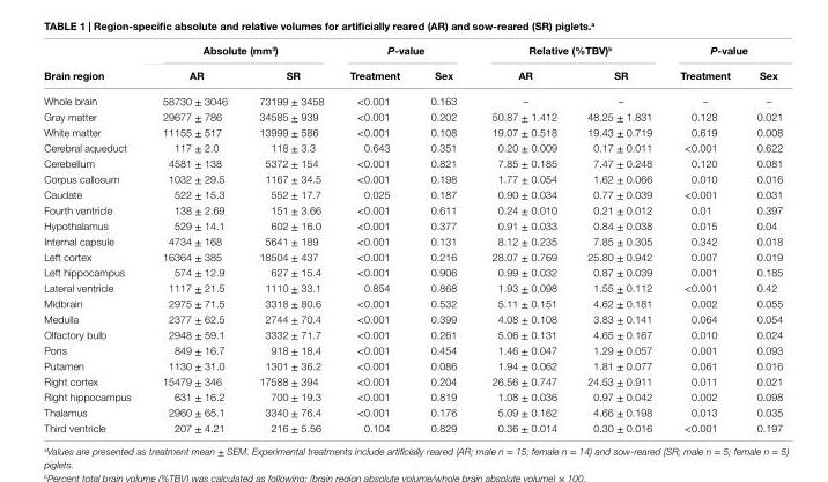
<table><thead><tr><td rowspan="2">Brain region</td><td colspan="2">absolute (mm<sup>3</sup>)</td><td colspan="2">P-value</td><td colspan="2">relative (%TBV)<sup>b</sup></td><td colspan="2">P-value</td></tr><tr><td>ar</td><td>sr</td><td>Treatment</td><td>sex</td><td>ar</td><td>sr</td><td>Treatment</td><td>sex</td></tr></thead><tbody><tr><td>Whole brain</td><td>58730 ± 3046</td><td>73199 ± 3458</td><td>&lt;0.001</td><td>0.163</td><td>–</td><td>–</td><td>–</td><td>–</td></tr><tr><td>Gray matter</td><td>29677 ± 786</td><td>34585 ± 939</td><td>&lt;0.001</td><td>0.202</td><td>50.87 ± 1.412</td><td>48.25 ± 1.831</td><td>0.128</td><td>0.021</td></tr><tr><td>White matter</td><td>11155 ± 517</td><td>13999 ± 586</td><td>&lt;0.001</td><td>0.108</td><td>19.07 ± 0.518</td><td>19.43 ± 0.719</td><td>0.619</td><td>0.008</td></tr><tr><td>Cerebral aqueduct</td><td>117 ± 2.0</td><td>118 ± 3.3</td><td>0.643</td><td>0.351</td><td>0.20 ± 0.009</td><td>0.17 ± 0.011</td><td>&lt;0.001</td><td>0.622</td></tr><tr><td>Cerebellum</td><td>4581 ± 138</td><td>5372 ± 154</td><td>&lt;0.001</td><td>0.821</td><td>7.85 ± 0.185</td><td>7.47 ± 0.248</td><td>0.120</td><td>0.081</td></tr><tr><td>Corpus callosum</td><td>1032 ± 29.5</td><td>1167 ± 34.5</td><td>&lt;0.001</td><td>0.198</td><td>1.77 ± 0.054</td><td>1.62 ± 0.066</td><td>0.010</td><td>0.016</td></tr><tr><td>Caudate</td><td>522 ± 15.3</td><td>552 ± 17.7</td><td>0.025</td><td>0.187</td><td>0.90 ± 0.034</td><td>0.77 ± 0.039</td><td>&lt;0.001</td><td>0.031</td></tr><tr><td>Fourth ventricle</td><td>138 ± 2.69</td><td>151 ± 3.66</td><td>&lt;0.001</td><td>0.611</td><td>0.24 ± 0.010</td><td>0.21 ± 0.012</td><td>0.01</td><td>0.397</td></tr><tr><td>Hypothalamus</td><td>529 ± 14.1</td><td>602 ± 16.0</td><td>&lt;0.001</td><td>0.377</td><td>0.91 ± 0.033</td><td>0.84 ± 0.038</td><td>0.015</td><td>0.04</td></tr><tr><td>Internal capsule</td><td>4734 ± 168</td><td>5641 ± 189</td><td>&lt;0.001</td><td>0.131</td><td>8.12 ± 0.235</td><td>7.85 ± 0.305</td><td>0.342</td><td>0.018</td></tr><tr><td>Left cortex</td><td>16364 ± 385</td><td>18504 ± 437</td><td>&lt;0.001</td><td>0.216</td><td>28.07 ± 0.769</td><td>25.80 ± 0.942</td><td>0.007</td><td>0.019</td></tr><tr><td>Left hippocampus</td><td>574 ± 12.9</td><td>627 ± 15.4</td><td>&lt;0.001</td><td>0.906</td><td>0.99 ± 0.032</td><td>0.87 ± 0.039</td><td>0.001</td><td>0.185</td></tr><tr><td>Lateral ventricle</td><td>1117 ± 21.5</td><td>1110 ± 33.1</td><td>0.854</td><td>0.868</td><td>1.93 ± 0.098</td><td>1.55 ± 0.112</td><td>&lt;0.001</td><td>0.42</td></tr><tr><td>Midbrain</td><td>2975 ± 71.5</td><td>3318 ± 80.6</td><td>&lt;0.001</td><td>0.532</td><td>5.11 ± 0.151</td><td>4.62 ± 0.181</td><td>0.002</td><td>0.055</td></tr><tr><td>Medulla</td><td>2377 ± 62.5</td><td>2744 ± 70.4</td><td>&lt;0.001</td><td>0.399</td><td>4.08 ± 0.108</td><td>3.83 ± 0.141</td><td>0.064</td><td>0.054</td></tr><tr><td>Olfactory bulb</td><td>2948 ± 59.1</td><td>3332 ± 71.7</td><td>&lt;0.001</td><td>0.261</td><td>5.06 ± 0.131</td><td>4.65 ± 0.167</td><td>0.010</td><td>0.024</td></tr><tr><td>Pons</td><td>849 ± 16.7</td><td>918 ± 18.4</td><td>&lt;0.001</td><td>0.454</td><td>1.46 ± 0.047</td><td>1.29 ± 0.057</td><td>0.001</td><td>0.093</td></tr><tr><td>Putamen</td><td>1130 ± 31.0</td><td>1301 ± 36.2</td><td>&lt;0.001</td><td>0.086</td><td>1.94 ± 0.062</td><td>1.81 ± 0.077</td><td>0.061</td><td>0.016</td></tr><tr><td>Right cortex</td><td>15479 ± 346</td><td>17588 ± 394</td><td>&lt;0.001</td><td>0.204</td><td>26.56 ± 0.747</td><td>24.53 ± 0.911</td><td>0.011</td><td>0.021</td></tr><tr><td>Right hippocampus</td><td>631 ± 16.2</td><td>700 ± 19.3</td><td>&lt;0.001</td><td>0.819</td><td>1.08 ± 0.036</td><td>0.97 ± 0.042</td><td>0.002</td><td>0.098</td></tr><tr><td>Thalamus</td><td>2960 ± 65.1</td><td>3340 ± 76.4</td><td>&lt;0.001</td><td>0.176</td><td>5.09 ± 0.162</td><td>4.66 ± 0.198</td><td>0.013</td><td>0.035</td></tr><tr><td>Third ventricle</td><td>207 ± 4.21</td><td>216 ± 5.56</td><td>0.104</td><td>0.829</td><td>0.36 ± 0.014</td><td>0.30 ± 0.016</td><td>&lt;0.001</td><td>0.197</td></tr></tbody></table>